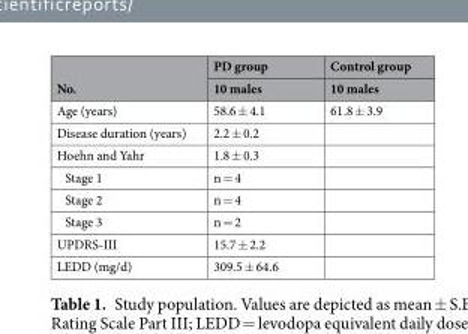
<table><thead><tr><td rowspan="2">No.</td><td rowspan="2">PD group 10 males</td><td rowspan="2">Control group 10 males</td></tr><tr></tr></thead><tbody><tr><td>Age (years)</td><td>58.6 ± 4.1</td><td>61.8 ± 3.9</td></tr><tr><td>Disease duration (years)</td><td>2.2 ± 0.2</td><td></td></tr><tr><td>Hoehn and Yahr</td><td>1.8 ± 0.3</td><td></td></tr><tr><td>Stage 1</td><td>n = 4</td><td></td></tr><tr><td>Stage 2</td><td>n = 4</td><td></td></tr><tr><td>Stage 3</td><td>n = 2</td><td></td></tr><tr><td>UPDRS-III</td><td>15.7 ± 2.2</td><td></td></tr><tr><td>LEDD (mg/d)</td><td>309.5 ± 64.6</td><td></td></tr></tbody></table>